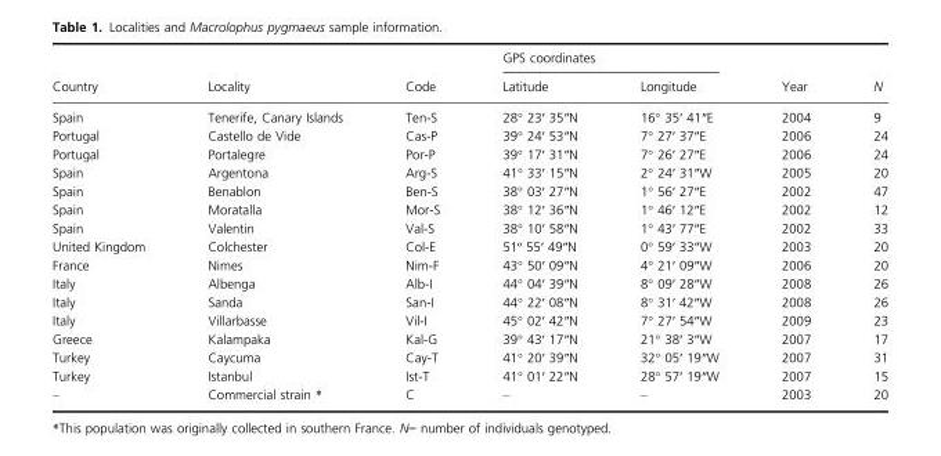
<table><thead><tr><td rowspan="2">Country</td><td rowspan="2">Locality</td><td rowspan="2">Code</td><td colspan="2">GPS coordinates</td><td rowspan="2">Year</td><td rowspan="2">N</td></tr><tr><td>Latitude</td><td>Longitude</td></tr></thead><tbody><tr><td>Spain</td><td>Tenerife, Canary Islands</td><td>Ten-S</td><td>28° 23′ 35″N</td><td>16° 35′ 41″E</td><td>2004</td><td>9</td></tr><tr><td>Portugal</td><td>Castello de Vide</td><td>Cas-P</td><td>39° 24′ 53″N</td><td>7° 27′ 37″E</td><td>2006</td><td>24</td></tr><tr><td>Portugal</td><td>Portalegre</td><td>Por-P</td><td>39° 17′ 31″N</td><td>7° 26′ 27″E</td><td>2006</td><td>24</td></tr><tr><td>Spain</td><td>Argentona</td><td>Arg-S</td><td>41° 33′ 15″N</td><td>2° 24′ 31″W</td><td>2005</td><td>20</td></tr><tr><td>Spain</td><td>Benablon</td><td>Ben-S</td><td>38° 03′ 27″N</td><td>1° 56′ 27″E</td><td>2002</td><td>47</td></tr><tr><td>Spain</td><td>Moratalla</td><td>Mor-S</td><td>38° 12′ 36″N</td><td>1° 46′ 12″E</td><td>2002</td><td>12</td></tr><tr><td>Spain</td><td>Valentin</td><td>Val-S</td><td>38° 10′ 58″N</td><td>1° 43′ 77″E</td><td>2002</td><td>33</td></tr><tr><td>United Kingdom</td><td>Colchester</td><td>Col-E</td><td>51º 55′ 49″N</td><td>0° 59′ 33″W</td><td>2003</td><td>20</td></tr><tr><td>France</td><td>Nimes</td><td>Nim-F</td><td>43° 50′ 09″N</td><td>4° 21′ 09″W</td><td>2006</td><td>20</td></tr><tr><td>Italy</td><td>Albenga</td><td>Alb-I</td><td>44° 04′ 39″N</td><td>8° 09′ 28″W</td><td>2008</td><td>26</td></tr><tr><td>Italy</td><td>Sanda</td><td>San-I</td><td>44° 22′ 08″N</td><td>8° 31′ 42″W</td><td>2008</td><td>26</td></tr><tr><td>Italy</td><td>Villarbasse</td><td>Vil-I</td><td>45° 02′ 42″N</td><td>7° 27′ 54″W</td><td>2009</td><td>23</td></tr><tr><td>Greece</td><td>Kalampaka</td><td>Kal-G</td><td>39° 43′ 17″N</td><td>21° 38′ 3″W</td><td>2007</td><td>17</td></tr><tr><td>Turkey</td><td>Caycuma</td><td>Cay-T</td><td>41° 20′ 39″N</td><td>32° 05′ 19″W</td><td>2007</td><td>31</td></tr><tr><td>Turkey</td><td>Istanbul</td><td>Ist-T</td><td>41° 01′ 22″N</td><td>28° 57′ 19″W</td><td>2007</td><td>15</td></tr><tr><td>–</td><td>Commercial strain *</td><td>C</td><td>–</td><td>–</td><td>2003</td><td>20</td></tr></tbody></table>